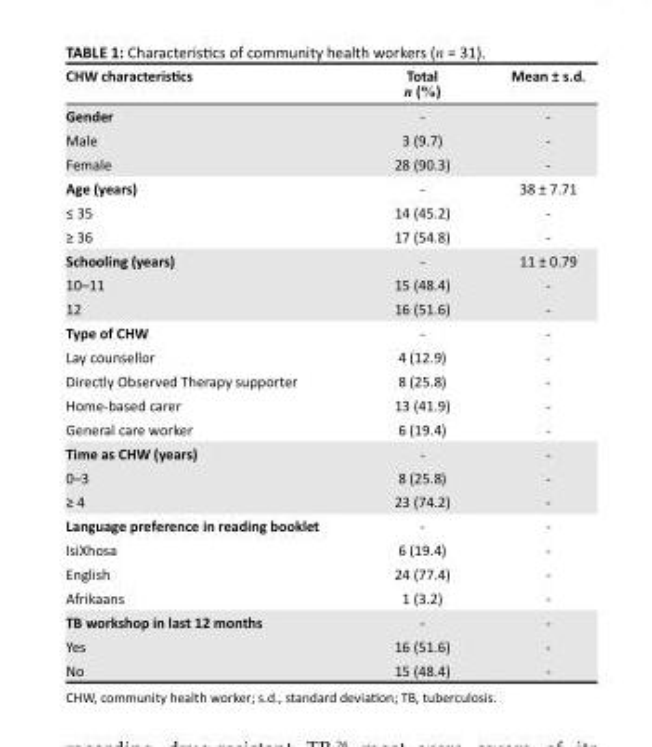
<table><thead><tr><td>CHW characteristics</td><td>Total n (%)</td><td>Mean ± s.d.</td></tr></thead><tbody><tr><td>Gender</td><td>-</td><td>-</td></tr><tr><td>Male</td><td>3 (9.7)</td><td>-</td></tr><tr><td>Female</td><td>28 (90.3)</td><td>-</td></tr><tr><td>Age (years)</td><td>-</td><td>38 ± 7.71</td></tr><tr><td>≤ 35</td><td>14 (45.2)</td><td>-</td></tr><tr><td>≥ 36</td><td>17 (54.8)</td><td>-</td></tr><tr><td>Schooling (years)</td><td>-</td><td>11 ± 0.79</td></tr><tr><td>10–11</td><td>15 (48.4)</td><td>-</td></tr><tr><td>12</td><td>16 (51.6)</td><td>-</td></tr><tr><td>Type of CHW</td><td>-</td><td>-</td></tr><tr><td>Lay counsellor</td><td>4 (12.9)</td><td>-</td></tr><tr><td>Directly Observed Therapy supporter</td><td>8 (25.8)</td><td>-</td></tr><tr><td>Home-based carer</td><td>13 (41.9)</td><td>-</td></tr><tr><td>General care worker</td><td>6 (19.4)</td><td>-</td></tr><tr><td>Time as CHW (years)</td><td>-</td><td>-</td></tr><tr><td>0–3</td><td>8 (25.8)</td><td>-</td></tr><tr><td>≥ 4</td><td>23 (74.2)</td><td>-</td></tr><tr><td>Language preference in reading booklet</td><td>-</td><td>-</td></tr><tr><td>IsiXhosa</td><td>6 (19.4)</td><td>-</td></tr><tr><td>English</td><td>24 (77.4)</td><td>-</td></tr><tr><td>Afrikaans</td><td>1 (3.2)</td><td>-</td></tr><tr><td>TB workshop in last 12 months</td><td>-</td><td>-</td></tr><tr><td>Yes</td><td>16 (51.6)</td><td>-</td></tr><tr><td>No</td><td>15 (48.4)</td><td>-</td></tr></tbody></table>